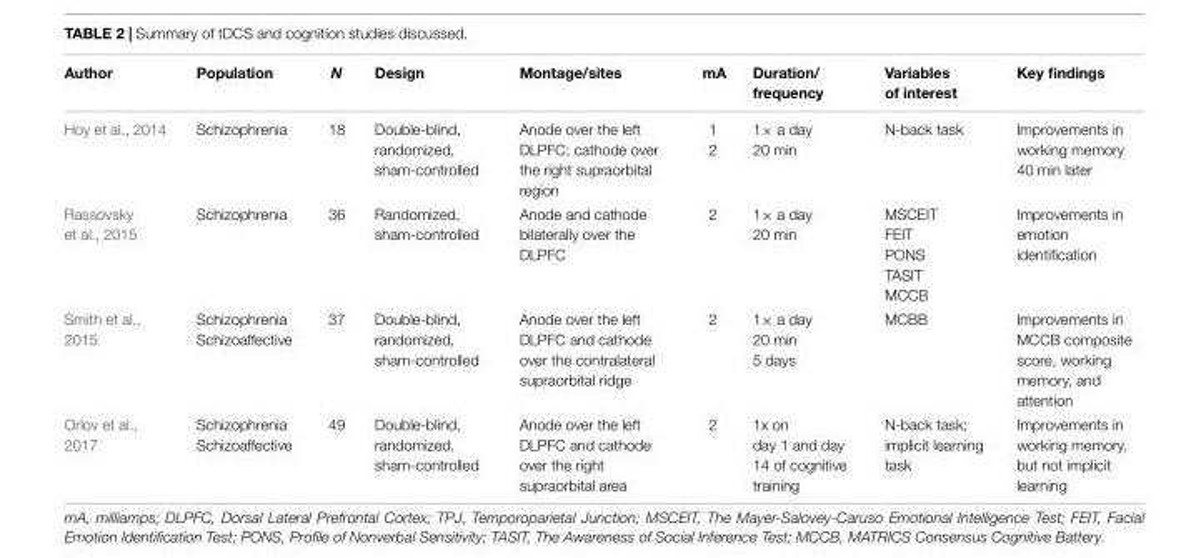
<table><thead><tr><td>Author</td><td>Population</td><td>N</td><td>Design</td><td>Montage/sites</td><td>mA</td><td>Duration/ frequency</td><td>Variables of interest</td><td>Key findings</td></tr></thead><tbody><tr><td>Hoy et al., 2014</td><td>Schizophrenia</td><td>18</td><td>Double-blind, randomized, sham-controlled</td><td>Anode over the left DLPFC; cathode over the right supraorbital region</td><td>1 2</td><td>1× a day 20 min</td><td>N-back task</td><td>Improvements in working memory 40 min later</td></tr><tr><td>Rassovsky et al., 2015</td><td>Schizophrenia</td><td>36</td><td>Randomized, sham-controlled</td><td>Anode and cathode bilaterally over the DLPFC</td><td>2</td><td>1× a day 20 min</td><td>MSCEIT FEIT PONS TASIT MCCB</td><td>Improvements in emotion identification</td></tr><tr><td>Smith et al., 2015</td><td>Schizophrenia Schizoaffective</td><td>37</td><td>Double-blind, randomized, sham-controlled</td><td>Anode over the left DLPFC and cathode over the contralateral supraorbital ridge</td><td>2</td><td>1× a day 20 min 5 days</td><td>MCBB</td><td>Improvements in MCCB composite score, working memory, and attention</td></tr><tr><td>Orlov et al., 2017</td><td>Schizophrenia Schizoaffective</td><td>49</td><td>Double-blind, randomized, sham-controlled</td><td>Anode over the left DLPFC and cathode over the right supraorbital area</td><td>2</td><td>1x on day 1 and day 14 of cognitive training</td><td>N-back task; implicit learning task</td><td>Improvements in working memory, but not implicit learning</td></tr></tbody></table>